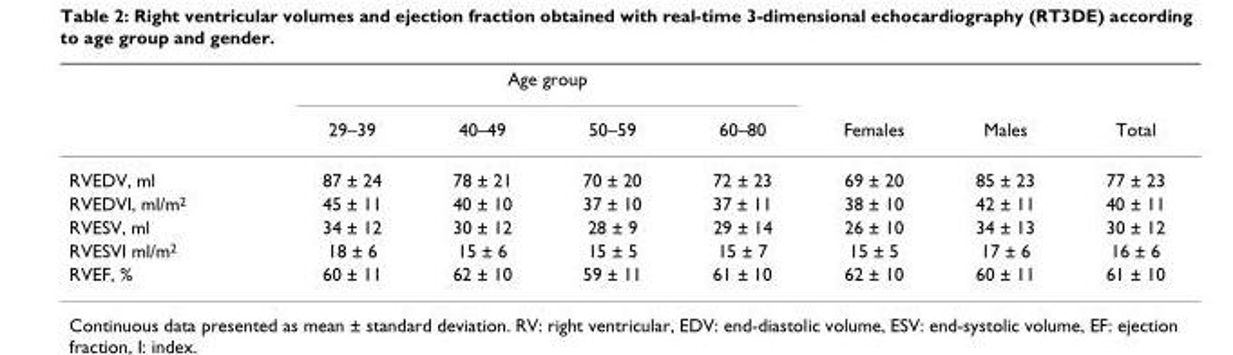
<table><thead><tr><td rowspan="2"></td><td colspan="4">Age group</td><td rowspan="2">Females</td><td rowspan="2">Males</td><td rowspan="2">Total</td></tr><tr><td>29–39</td><td>40–49</td><td>50–59</td><td>60–80</td></tr></thead><tbody><tr><td>RVEDV, ml</td><td>87 ± 24</td><td>78 ± 21</td><td>70 ± 20</td><td>72 ± 23</td><td>69 ± 20</td><td>85 ± 23</td><td>77 ± 23</td></tr><tr><td>RVEDVI, ml/m<sup>2</sup></td><td>45 ± 11</td><td>40 ± 10</td><td>37 ± 10</td><td>37 ± 11</td><td>38 ± 10</td><td>42 ± 11</td><td>40 ± 11</td></tr><tr><td>RVESV, ml</td><td>34 ± 12</td><td>30 ± 12</td><td>28 ± 9</td><td>29 ± 14</td><td>26 ± 10</td><td>34 ± 13</td><td>30 ± 12</td></tr><tr><td>RVESVI ml/m<sup>2</sup></td><td>18 ± 6</td><td>15 ± 6</td><td>15 ± 5</td><td>15 ± 7</td><td>15 ± 5</td><td>17 ± 6</td><td>16 ± 6</td></tr><tr><td>RVEF, %</td><td>60 ± 11</td><td>62 ± 10</td><td>59 ± 11</td><td>61 ± 10</td><td>62 ± 10</td><td>60 ± 11</td><td>61 ± 10</td></tr></tbody></table>